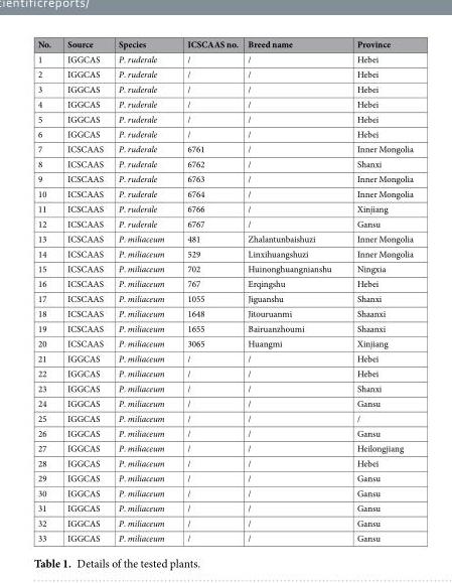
<table><thead><tr><td>No.</td><td>Source</td><td>Species</td><td>ICSCAAS no.</td><td>Breed name</td><td>Province</td></tr></thead><tbody><tr><td>1</td><td>IGGCAS</td><td>P. ruderale</td><td>/</td><td>/</td><td>Hebei</td></tr><tr><td>2</td><td>IGGCAS</td><td>P. ruderale</td><td>/</td><td>/</td><td>Hebei</td></tr><tr><td>3</td><td>IGGCAS</td><td>P. ruderale</td><td>/</td><td>/</td><td>Hebei</td></tr><tr><td>4</td><td>IGGCAS</td><td>P. ruderale</td><td>/</td><td>/</td><td>Hebei</td></tr><tr><td>5</td><td>IGGCAS</td><td>P. ruderale</td><td>/</td><td>/</td><td>Hebei</td></tr><tr><td>6</td><td>IGGCAS</td><td>P. ruderale</td><td>/</td><td>/</td><td>Hebei</td></tr><tr><td>7</td><td>ICSCAAS</td><td>P. ruderale</td><td>6761</td><td>/</td><td>Inner Mongolia</td></tr><tr><td>8</td><td>ICSCAAS</td><td>P. ruderale</td><td>6762</td><td>/</td><td>Shanxi</td></tr><tr><td>9</td><td>ICSCAAS</td><td>P. ruderale</td><td>6763</td><td>/</td><td>Inner Mongolia</td></tr><tr><td>10</td><td>ICSCAAS</td><td>P. ruderale</td><td>6764</td><td>/</td><td>Inner Mongolia</td></tr><tr><td>11</td><td>ICSCAAS</td><td>P. ruderale</td><td>6766</td><td>/</td><td>Xinjiang</td></tr><tr><td>12</td><td>ICSCAAS</td><td>P. ruderale</td><td>6767</td><td>/</td><td>Gansu</td></tr><tr><td>13</td><td>ICSCAAS</td><td>P. miliaceum</td><td>481</td><td>Zhalantunbaishuzi</td><td>Inner Mongolia</td></tr><tr><td>14</td><td>ICSCAAS</td><td>P. miliaceum</td><td>529</td><td>Linxihuangshuzi</td><td>Inner Mongolia</td></tr><tr><td>15</td><td>ICSCAAS</td><td>P. miliaceum</td><td>702</td><td>Huinonghuangnianshu</td><td>Ningxia</td></tr><tr><td>16</td><td>ICSCAAS</td><td>P. miliaceum</td><td>767</td><td>Erqingshu</td><td>Hebei</td></tr><tr><td>17</td><td>ICSCAAS</td><td>P. miliaceum</td><td>1055</td><td>Jiguanshu</td><td>Shanxi</td></tr><tr><td>18</td><td>ICSCAAS</td><td>P. miliaceum</td><td>1648</td><td>Jitouruanmi</td><td>Shaanxi</td></tr><tr><td>19</td><td>ICSCAAS</td><td>P. miliaceum</td><td>1655</td><td>Bairuanzhoumi</td><td>Shaanxi</td></tr><tr><td>20</td><td>ICSCAAS</td><td>P. miliaceum</td><td>3065</td><td>Huangmi</td><td>Xinjiang</td></tr><tr><td>21</td><td>IGGCAS</td><td>P. miliaceum</td><td>/</td><td>/</td><td>Hebei</td></tr><tr><td>22</td><td>IGGCAS</td><td>P. miliaceum</td><td>/</td><td>/</td><td>Hebei</td></tr><tr><td>23</td><td>IGGCAS</td><td>P. miliaceum</td><td>/</td><td>/</td><td>Shanxi</td></tr><tr><td>24</td><td>IGGCAS</td><td>P. miliaceum</td><td>/</td><td>/</td><td>Gansu</td></tr><tr><td>25</td><td>IGGCAS</td><td>P. miliaceum</td><td>/</td><td>/</td><td>/</td></tr><tr><td>26</td><td>IGGCAS</td><td>P. miliaceum</td><td>/</td><td>/</td><td>Gansu</td></tr><tr><td>27</td><td>IGGCAS</td><td>P. miliaceum</td><td>/</td><td>/</td><td>Heilongjiang</td></tr><tr><td>28</td><td>IGGCAS</td><td>P. miliaceum</td><td>/</td><td>/</td><td>Hebei</td></tr><tr><td>29</td><td>IGGCAS</td><td>P. miliaceum</td><td>/</td><td>/</td><td>Gansu</td></tr><tr><td>30</td><td>IGGCAS</td><td>P. miliaceum</td><td>/</td><td>/</td><td>Gansu</td></tr><tr><td>31</td><td>IGGCAS</td><td>P. miliaceum</td><td>/</td><td>/</td><td>Gansu</td></tr><tr><td>32</td><td>IGGCAS</td><td>P. miliaceum</td><td>/</td><td>/</td><td>Gansu</td></tr><tr><td>33</td><td>IGGCAS</td><td>P. miliaceum</td><td>/</td><td>/</td><td>Gansu</td></tr></tbody></table>